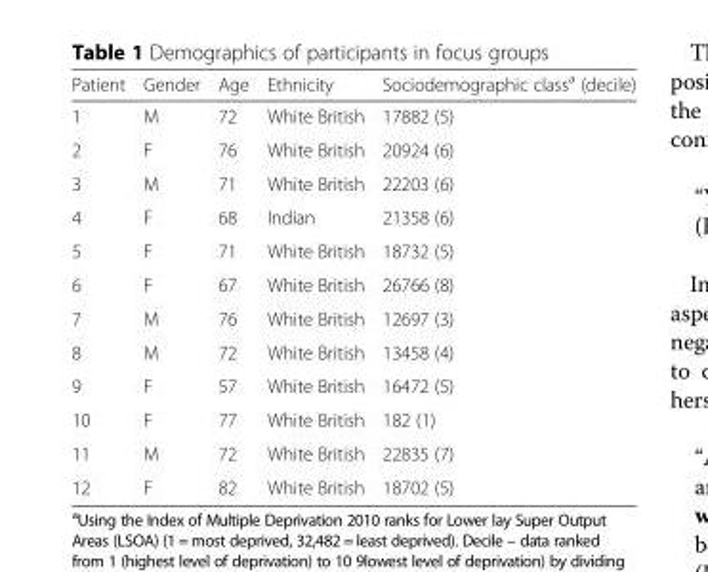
<table><thead><tr><td>Patient</td><td>Gender</td><td>Age</td><td>Ethnicity</td><td>Sociodemographic class<sup>a</sup> (decile)</td></tr></thead><tbody><tr><td>1</td><td>M</td><td>72</td><td>White British</td><td>17882 (5)</td></tr><tr><td>2</td><td>F</td><td>76</td><td>White British</td><td>20924 (6)</td></tr><tr><td>3</td><td>M</td><td>71</td><td>White British</td><td>22203 (6)</td></tr><tr><td>4</td><td>F</td><td>68</td><td>Indian</td><td>21358 (6)</td></tr><tr><td>5</td><td>F</td><td>71</td><td>White British</td><td>18732 (5)</td></tr><tr><td>6</td><td>F</td><td>67</td><td>White British</td><td>26766 (8)</td></tr><tr><td>7</td><td>M</td><td>76</td><td>White British</td><td>12697 (3)</td></tr><tr><td>8</td><td>M</td><td>72</td><td>White British</td><td>13458 (4)</td></tr><tr><td>9</td><td>F</td><td>57</td><td>White British</td><td>16472 (5)</td></tr><tr><td>10</td><td>F</td><td>77</td><td>White British</td><td>182 (1)</td></tr><tr><td>11</td><td>M</td><td>72</td><td>White British</td><td>22835 (7)</td></tr><tr><td>12</td><td>F</td><td>82</td><td>White British</td><td>18702 (5)</td></tr></tbody></table>